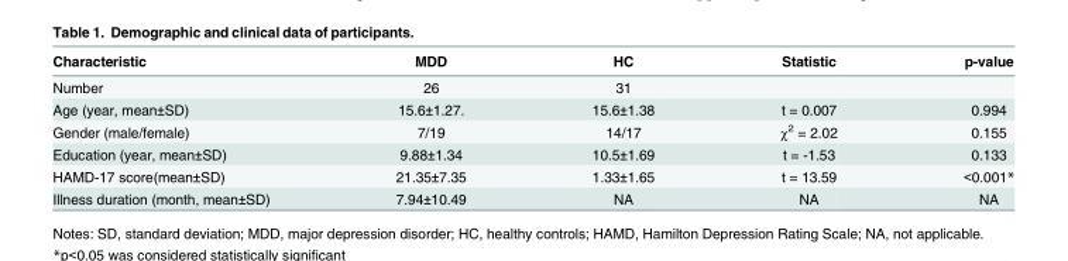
<table><thead><tr><td>Characteristic</td><td>MDD</td><td>HC</td><td>Statistic</td><td>p-value</td></tr></thead><tbody><tr><td>Number</td><td>26</td><td>31</td><td></td><td></td></tr><tr><td>Age (year, mean±SD)</td><td>15.6±1.27.</td><td>15.6±1.38</td><td>t = 0.007</td><td>0.994</td></tr><tr><td>Gender (male/female)</td><td>7/19</td><td>14/17</td><td>χ<sup>2</sup> = 2.02</td><td>0.155</td></tr><tr><td>Education (year, mean±SD)</td><td>9.88±1.34</td><td>10.5±1.69</td><td>t = -1.53</td><td>0.133</td></tr><tr><td>HAMD-17 score(mean±SD)</td><td>21.35±7.35</td><td>1.33±1.65</td><td>t = 13.59</td><td>&lt;0.001*</td></tr><tr><td>Illness duration (month, mean±SD)</td><td>7.94±10.49</td><td>NA</td><td>NA</td><td>NA</td></tr></tbody></table>